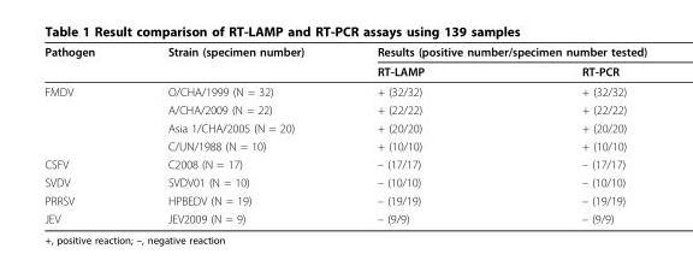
<table><thead><tr><td rowspan="2">Pathogen</td><td rowspan="2">Strain (specimen number)</td><td colspan="2">Results (positive number/specimen number tested)</td></tr><tr><td>RT-LAMP</td><td>RT-PCR</td></tr></thead><tbody><tr><td rowspan="4">FMDV</td><td>O/CHA/1999 (N = 32)</td><td>+ (32/32)</td><td>+ (32/32)</td></tr><tr><td>A/CHA/2009 (N = 22)</td><td>+ (22/22)</td><td>+ (22/22)</td></tr><tr><td>Asia 1/CHA/2005 (N = 20)</td><td>+ (20/20)</td><td>+ (20/20)</td></tr><tr><td>C/UN/1988 (N = 10)</td><td>+ (10/10)</td><td>+ (10/10)</td></tr><tr><td>CSFV</td><td>C2008 (N = 17)</td><td>– (17/17)</td><td>– (17/17)</td></tr><tr><td>SVDV</td><td>SVDV01 (N = 10)</td><td>– (10/10)</td><td>– (10/10)</td></tr><tr><td>PRRSV</td><td>HPBEDV (N = 19)</td><td>– (19/19)</td><td>– (19/19)</td></tr><tr><td>JEV</td><td>JEV2009 (N = 9)</td><td>– (9/9)</td><td>– (9/9)</td></tr></tbody></table>